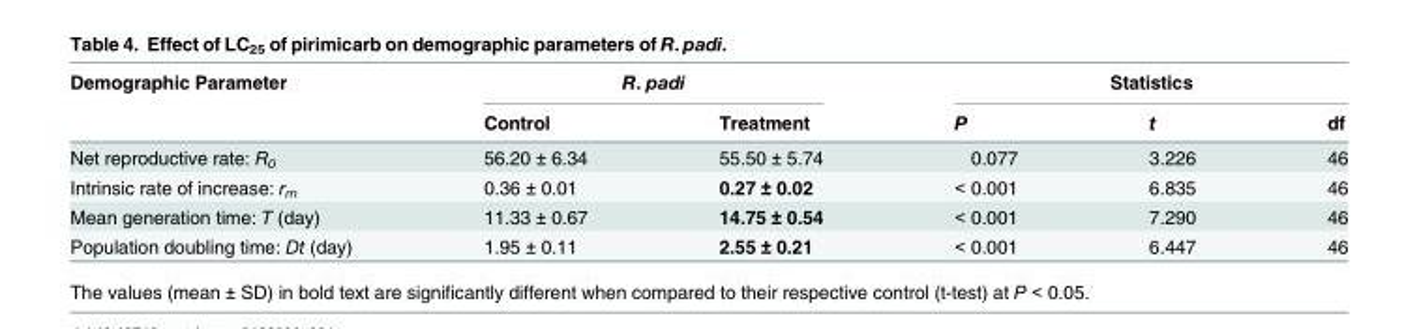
<table><thead><tr><td rowspan="2">Demographic Parameter</td><td colspan="2">R. padi</td><td colspan="3">Statistics</td></tr><tr><td>Control</td><td>Treatment</td><td>P</td><td>t</td><td>df</td></tr></thead><tbody><tr><td>Net reproductive rate: R<sub>0</sub></td><td>56.20 ± 6.34</td><td>55.50 ± 5.74</td><td>0.077</td><td>3.226</td><td>46</td></tr><tr><td>Intrinsic rate of increase: r<sub>m</sub></td><td>0.36 ± 0.01</td><td>0.27 ± 0.02</td><td>&lt; 0.001</td><td>6.835</td><td>46</td></tr><tr><td>Mean generation time: T (day)</td><td>11.33 ± 0.67</td><td>14.75 ± 0.54</td><td>&lt; 0.001</td><td>7.290</td><td>46</td></tr><tr><td>Population doubling time: Dt (day)</td><td>1.95 ± 0.11</td><td>2.55 ± 0.21</td><td>&lt; 0.001</td><td>6.447</td><td>46</td></tr></tbody></table>